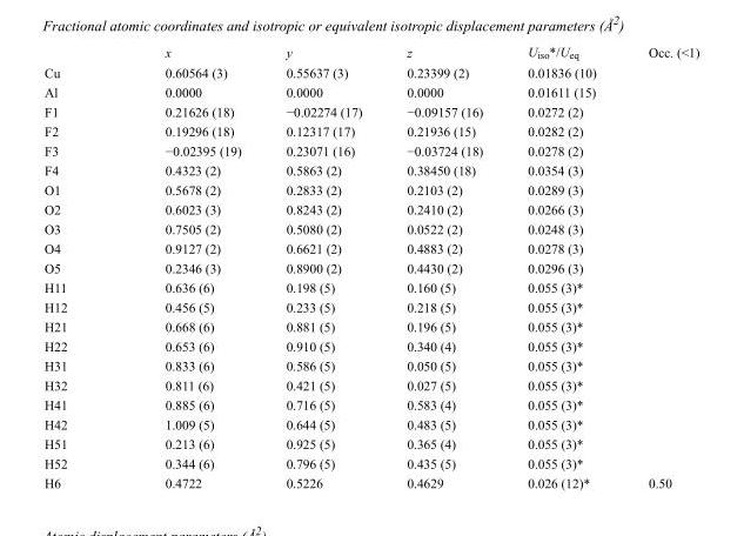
<table><thead><tr><td></td><td>x</td><td>y</td><td>z</td><td>U<sub>iso</sub>*/U<sub>eq</sub></td><td>Occ. (&lt;1)</td></tr></thead><tbody><tr><td>Cu</td><td>0.60564 (3)</td><td>0.55637 (3)</td><td>0.23399 (2)</td><td>0.01836 (10)</td><td></td></tr><tr><td>Al</td><td>0.0000</td><td>0.0000</td><td>0.0000</td><td>0.01611 (15)</td><td></td></tr><tr><td>F1</td><td>0.21626 (18)</td><td>−0.02274 (17)</td><td>−0.09157 (16)</td><td>0.0272 (2)</td><td></td></tr><tr><td>F2</td><td>0.19296 (18)</td><td>0.12317 (17)</td><td>0.21936 (15)</td><td>0.0282 (2)</td><td></td></tr><tr><td>F3</td><td>−0.02395 (19)</td><td>0.23071 (16)</td><td>−0.03724 (18)</td><td>0.0278 (2)</td><td></td></tr><tr><td>F4</td><td>0.4323 (2)</td><td>0.5863 (2)</td><td>0.38450 (18)</td><td>0.0354 (3)</td><td></td></tr><tr><td>O1</td><td>0.5678 (2)</td><td>0.2833 (2)</td><td>0.2103 (2)</td><td>0.0289 (3)</td><td></td></tr><tr><td>O2</td><td>0.6023 (3)</td><td>0.8243 (2)</td><td>0.2410 (2)</td><td>0.0266 (3)</td><td></td></tr><tr><td>O3</td><td>0.7505 (2)</td><td>0.5080 (2)</td><td>0.0522 (2)</td><td>0.0248 (3)</td><td></td></tr><tr><td>O4</td><td>0.9127 (2)</td><td>0.6621 (2)</td><td>0.4883 (2)</td><td>0.0278 (3)</td><td></td></tr><tr><td>O5</td><td>0.2346 (3)</td><td>0.8900 (2)</td><td>0.4430 (2)</td><td>0.0296 (3)</td><td></td></tr><tr><td>H11</td><td>0.636 (6)</td><td>0.198 (5)</td><td>0.160 (5)</td><td>0.055 (3)*</td><td></td></tr><tr><td>H12</td><td>0.456 (5)</td><td>0.233 (5)</td><td>0.218 (5)</td><td>0.055 (3)*</td><td></td></tr><tr><td>H21</td><td>0.668 (6)</td><td>0.881 (5)</td><td>0.196 (5)</td><td>0.055 (3)*</td><td></td></tr><tr><td>H22</td><td>0.653 (6)</td><td>0.910 (5)</td><td>0.340 (4)</td><td>0.055 (3)*</td><td></td></tr><tr><td>H31</td><td>0.833 (6)</td><td>0.586 (5)</td><td>0.050 (5)</td><td>0.055 (3)*</td><td></td></tr><tr><td>H32</td><td>0.811 (6)</td><td>0.421 (5)</td><td>0.027 (5)</td><td>0.055 (3)*</td><td></td></tr><tr><td>H41</td><td>0.885 (6)</td><td>0.716 (5)</td><td>0.583 (4)</td><td>0.055 (3)*</td><td></td></tr><tr><td>H42</td><td>1.009 (5)</td><td>0.644 (5)</td><td>0.483 (5)</td><td>0.055 (3)*</td><td></td></tr><tr><td>H51</td><td>0.213 (6)</td><td>0.925 (5)</td><td>0.365 (4)</td><td>0.055 (3)*</td><td></td></tr><tr><td>H52</td><td>0.344 (6)</td><td>0.796 (5)</td><td>0.435 (5)</td><td>0.055 (3)*</td><td></td></tr><tr><td>H6</td><td>0.4722</td><td>0.5226</td><td>0.4629</td><td>0.026 (12)*</td><td>0.50</td></tr></tbody></table>